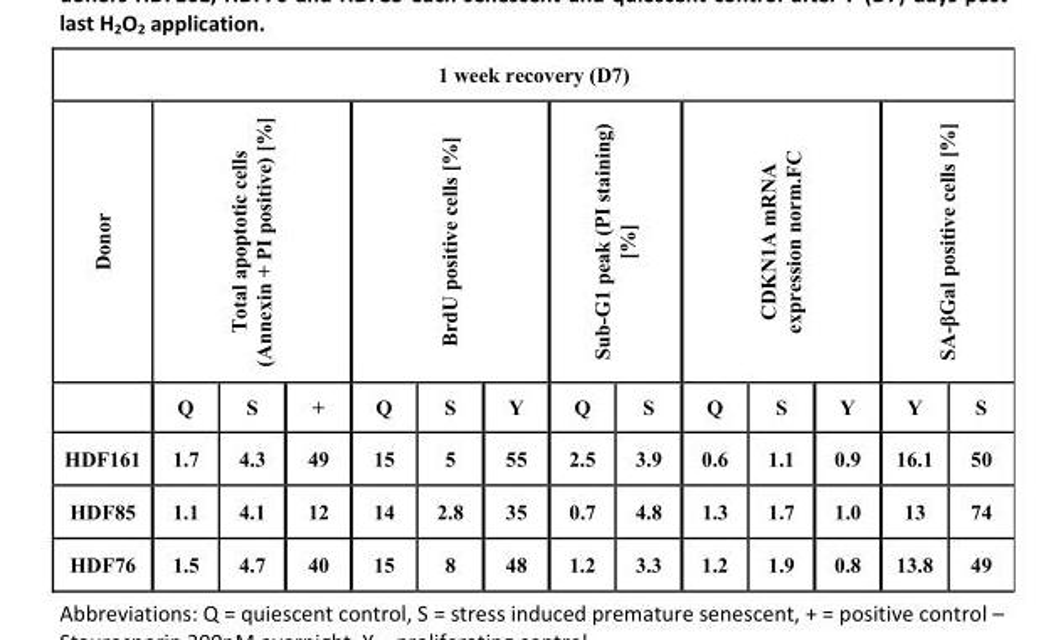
<table><tbody><tr><td colspan="14">1 week recovery (D7)</td></tr><tr><td rowspan="2">Donor</td><td colspan="3">Total apoptotic cells (Annexin + PI positive) [%]</td><td colspan="3">BrdU positive cells [%]</td><td colspan="2">Sub-G1 peak (PI staining) [%]</td><td colspan="3">CDKN1A mRNA expression norm.FC</td><td colspan="2">SA-βGal positive cells [%]</td></tr><tr><td>Q</td><td>S</td><td>+</td><td>Q</td><td>S</td><td>Y</td><td>Q</td><td>S</td><td>Q</td><td>S</td><td>Y</td><td>Y</td><td>S</td></tr><tr><td>HDF161</td><td>1.7</td><td>4.3</td><td>49</td><td>15</td><td>5</td><td>55</td><td>2.5</td><td>3.9</td><td>0.6</td><td>1.1</td><td>0.9</td><td>16.1</td><td>50</td></tr><tr><td>HDF85</td><td>1.1</td><td>4.1</td><td>12</td><td>14</td><td>2.8</td><td>35</td><td>0.7</td><td>4.8</td><td>1.3</td><td>1.7</td><td>1.0</td><td>13</td><td>74</td></tr><tr><td>HDF76</td><td>1.5</td><td>4.7</td><td>40</td><td>15</td><td>8</td><td>48</td><td>1.2</td><td>3.3</td><td>1.2</td><td>1.9</td><td>0.8</td><td>13.8</td><td>49</td></tr></tbody></table>